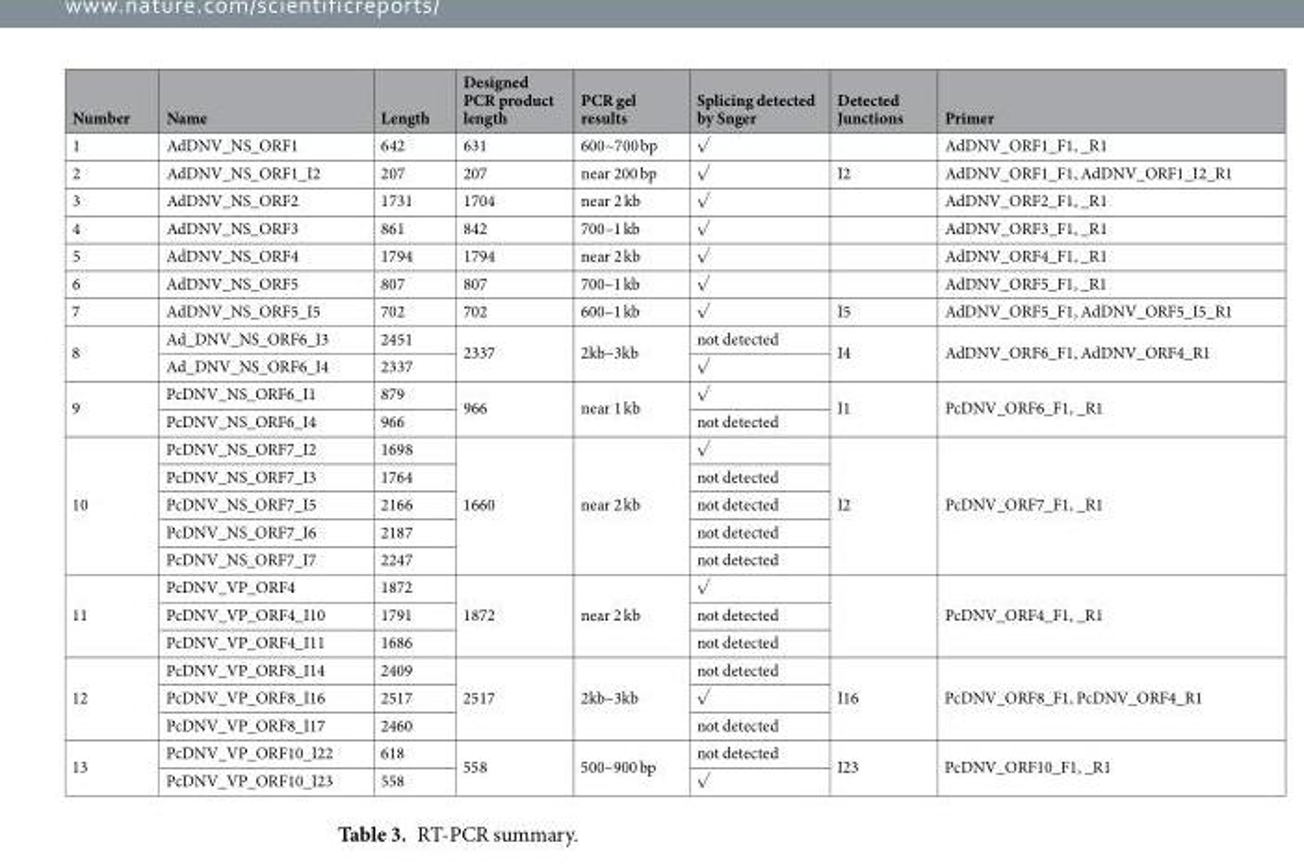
<table><thead><tr><td>Number</td><td>Name</td><td>Length</td><td>Designed PCR product length</td><td>PCR gel results</td><td>Splicing detected by Snger</td><td>Detected Junctions</td><td>Primer</td></tr></thead><tbody><tr><td>1</td><td>AdDNV_NS_ORF1</td><td>642</td><td>631</td><td>600~700 bp</td><td>√</td><td></td><td>AdDNV_ORF1_F1, _R1</td></tr><tr><td>2</td><td>AdDNV_NS_ORF1_I2</td><td>207</td><td>207</td><td>near 200 bp</td><td>√</td><td>I2</td><td>AdDNV_ORF1_F1, AdDNV_ORF1_I2_R1</td></tr><tr><td>3</td><td>AdDNV_NS_ORF2</td><td>1731</td><td>1704</td><td>near 2 kb</td><td>√</td><td></td><td>AdDNV_ORF2_F1, _R1</td></tr><tr><td>4</td><td>AdDNV_NS_ORF3</td><td>861</td><td>842</td><td>700–1 kb</td><td>√</td><td></td><td>AdDNV_ORF3_F1, _R1</td></tr><tr><td>5</td><td>AdDNV_NS_ORF4</td><td>1794</td><td>1794</td><td>near 2 kb</td><td>√</td><td></td><td>AdDNV_ORF4_F1, _R1</td></tr><tr><td>6</td><td>AdDNV_NS_ORF5</td><td>807</td><td>807</td><td>700–1 kb</td><td>√</td><td></td><td>AdDNV_ORF5_F1, _R1</td></tr><tr><td>7</td><td>AdDNV_NS_ORF5_I5</td><td>702</td><td>702</td><td>600–1 kb</td><td>√</td><td>I5</td><td>AdDNV_ORF5_F1, AdDNV_ORF5_I5_R1</td></tr><tr><td rowspan="2">8</td><td>Ad_DNV_NS_ORF6_I3</td><td>2451</td><td rowspan="2">2337</td><td rowspan="2">2kb–3kb</td><td>not detected</td><td rowspan="2">I4</td><td rowspan="2">AdDNV_ORF6_F1, AdDNV_ORF4_R1</td></tr><tr><td>Ad_DNV_NS_ORF6_I4</td><td>2337</td><td>√</td></tr><tr><td rowspan="2">9</td><td>PcDNV_NS_ORF6_I1</td><td>879</td><td rowspan="2">966</td><td rowspan="2">near 1 kb</td><td>√</td><td rowspan="2">I1</td><td rowspan="2">PcDNV_ORF6_F1, _R1</td></tr><tr><td>PcDNV_NS_ORF6_I4</td><td>966</td><td>not detected</td></tr><tr><td rowspan="5">10</td><td>PcDNV_NS_ORF7_I2</td><td>1698</td><td rowspan="5">1660</td><td rowspan="5">near 2 kb</td><td>√</td><td rowspan="5">I2</td><td rowspan="5">PcDNV_ORF7_F1, _R1</td></tr><tr><td>PcDNV_NS_ORF7_I3</td><td>1764</td><td>not detected</td></tr><tr><td>PcDNV_NS_ORF7_I5</td><td>2166</td><td>not detected</td></tr><tr><td>PcDNV_NS_ORF7_I6</td><td>2187</td><td>not detected</td></tr><tr><td>PcDNV_NS_ORF7_I7</td><td>2247</td><td>not detected</td></tr><tr><td rowspan="3">11</td><td>PcDNV_VP_ORF4</td><td>1872</td><td rowspan="3">1872</td><td rowspan="3">near 2 kb</td><td>√</td><td rowspan="3"></td><td rowspan="3">PcDNV_ORF4_F1, _R1</td></tr><tr><td>PcDNV_VP_ORF4_I10</td><td>1791</td><td>not detected</td></tr><tr><td>PcDNV_VP_ORF4_I11</td><td>1686</td><td>not detected</td></tr><tr><td rowspan="3">12</td><td>PcDNV_VP_ORF8_I14</td><td>2409</td><td rowspan="3">2517</td><td rowspan="3">2kb–3kb</td><td>not detected</td><td rowspan="3">I16</td><td rowspan="3">PcDNV_ORF8_F1, PcDNV_ORF4_R1</td></tr><tr><td>PcDNV_VP_ORF8_I16</td><td>2517</td><td>√</td></tr><tr><td>PcDNV_VP_ORF8_I17</td><td>2460</td><td>not detected</td></tr><tr><td rowspan="2">13</td><td>PcDNV_VP_ORF10_I22</td><td>618</td><td rowspan="2">558</td><td rowspan="2">500–900 bp</td><td>not detected</td><td rowspan="2">I23</td><td rowspan="2">PcDNV_ORF10_F1, _R1</td></tr><tr><td>PcDNV_VP_ORF10_I23</td><td>558</td><td>√</td></tr></tbody></table>